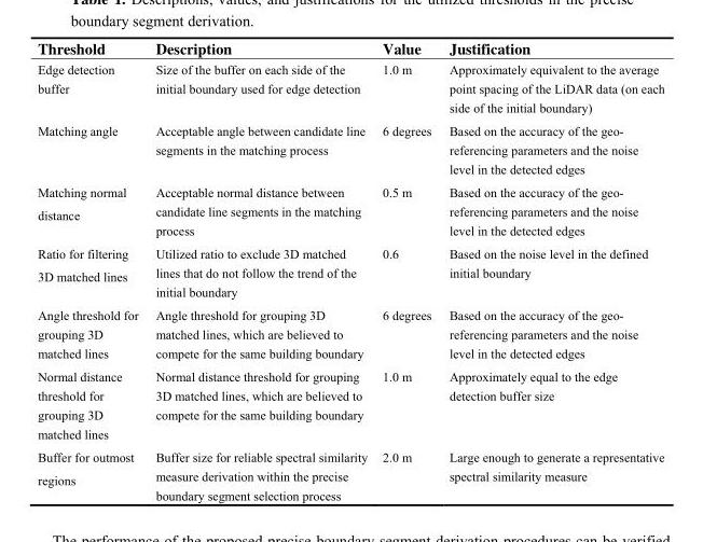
<table><thead><tr><td>Threshold</td><td>Description</td><td>Value</td><td>Justification</td></tr></thead><tbody><tr><td>Edge detection buffer</td><td>Size of the buffer on each side of the initial boundary used for edge detection</td><td>1.0 m</td><td>Approximately equivalent to the average point spacing of the LiDAR data (on each side of the initial boundary)</td></tr><tr><td>Matching angle</td><td>Acceptable angle between candidate line segments in the matching process</td><td>6 degrees</td><td>Based on the accuracy of the geo- referencing parameters and the noise level in the detected edges</td></tr><tr><td>Matching normal distance</td><td>Acceptable normal distance between candidate line segments in the matching process</td><td>0.5 m</td><td>Based on the accuracy of the geo- referencing parameters and the noise level in the detected edges</td></tr><tr><td>Ratio for filtering 3D matched lines</td><td>Utilized ratio to exclude 3D matched lines that do not follow the trend of the initial boundary</td><td>0.6</td><td>Based on the noise level in the defined initial boundary</td></tr><tr><td>Angle threshold for grouping 3D matched lines</td><td>Angle threshold for grouping 3D matched lines, which are believed to compete for the same building boundary</td><td>6 degrees</td><td>Based on the accuracy of the geo- referencing parameters and the noise level in the detected edges</td></tr><tr><td>Normal distance threshold for grouping 3D matched lines</td><td>Normal distance threshold for grouping 3D matched lines, which are believed to compete for the same building boundary</td><td>1.0 m</td><td>Approximately equal to the edge detection buffer size</td></tr><tr><td>Buffer for outmost regions</td><td>Buffer size for reliable spectral similarity measure derivation within the precise boundary segment selection process</td><td>2.0 m</td><td>Large enough to generate a representative spectral similarity measure</td></tr></tbody></table>